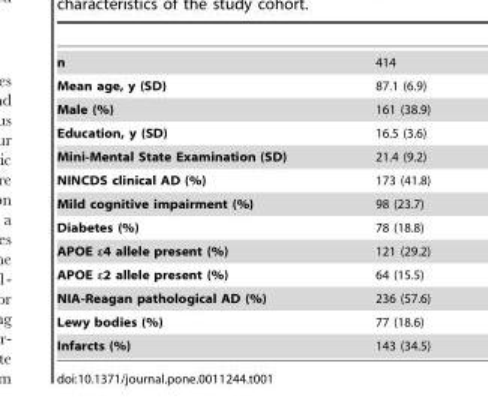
<table><tbody><tr><td>n</td><td>414</td></tr><tr><td>Mean age, y (SD)</td><td>87.1 (6.9)</td></tr><tr><td>Male (%)</td><td>161 (38.9)</td></tr><tr><td>Education, y (SD)</td><td>16.5 (3.6)</td></tr><tr><td>Mini-Mental State Examination (SD)</td><td>21.4 (9.2)</td></tr><tr><td>NINCDS clinical AD (%)</td><td>173 (41.8)</td></tr><tr><td>Mild cognitive impairment (%)</td><td>98 (23.7)</td></tr><tr><td>Diabetes (%)</td><td>78 (18.8)</td></tr><tr><td>APOE ε4 allele present (%)</td><td>121 (29.2)</td></tr><tr><td>APOE ε2 allele present (%)</td><td>64 (15.5)</td></tr><tr><td>NIA-Reagan pathological AD (%)</td><td>236 (57.6)</td></tr><tr><td>Lewy bodies (%)</td><td>77 (18.6)</td></tr><tr><td>Infarcts (%)</td><td>143 (34.5)</td></tr></tbody></table>